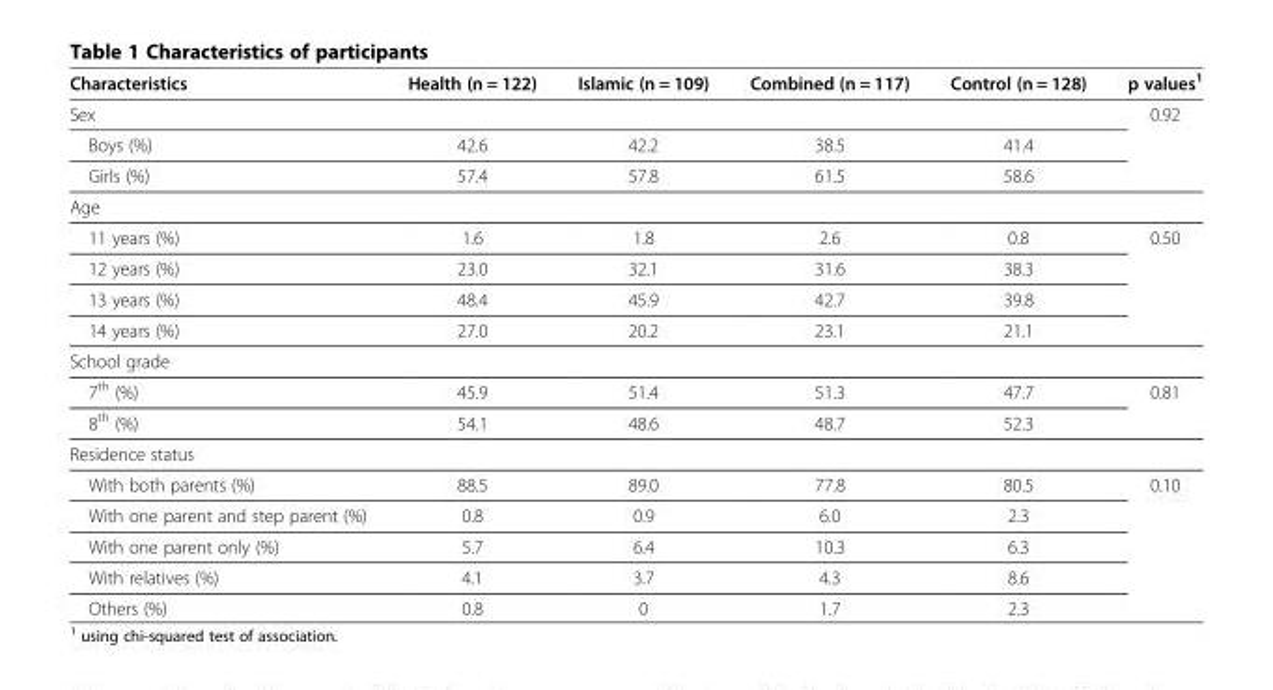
<table><thead><tr><td>Characteristics</td><td>Health (n = 122)</td><td>Islamic (n = 109)</td><td>Combined (n = 117)</td><td>Control (n = 128)</td><td>p values<sup>1</sup></td></tr></thead><tbody><tr><td colspan="5">Sex</td><td rowspan="2">0.92</td></tr><tr><td>Boys (%)</td><td>42.6</td><td>42.2</td><td>38.5</td><td>41.4</td></tr><tr><td>Girls (%)</td><td>57.4</td><td>57.8</td><td>61.5</td><td>58.6</td><td></td></tr><tr><td colspan="6">Age</td></tr><tr><td>11 years (%)</td><td>1.6</td><td>1.8</td><td>2.6</td><td>0.8</td><td rowspan="3">0.50</td></tr><tr><td>12 years (%)</td><td>23.0</td><td>32.1</td><td>31.6</td><td>38.3</td></tr><tr><td>13 years (%)</td><td>48.4</td><td>45.9</td><td>42.7</td><td>39.8</td></tr><tr><td>14 years (%)</td><td>27.0</td><td>20.2</td><td>23.1</td><td>21.1</td><td></td></tr><tr><td colspan="6">School grade</td></tr><tr><td>7<sup>th</sup> (%)</td><td>45.9</td><td>51.4</td><td>51.3</td><td>47.7</td><td rowspan="2">0.81</td></tr><tr><td>8<sup>th</sup> (%)</td><td>54.1</td><td>48.6</td><td>48.7</td><td>52.3</td></tr><tr><td colspan="6">Residence status</td></tr><tr><td>With both parents (%)</td><td>88.5</td><td>89.0</td><td>77.8</td><td>80.5</td><td rowspan="5">0.10</td></tr><tr><td>With one parent and step parent (%)</td><td>0.8</td><td>0.9</td><td>6.0</td><td>2.3</td></tr><tr><td>With one parent only (%)</td><td>5.7</td><td>6.4</td><td>10.3</td><td>6.3</td></tr><tr><td>With relatives (%)</td><td>4.1</td><td>3.7</td><td>4.3</td><td>8.6</td></tr><tr><td>Others (%)</td><td>0.8</td><td>0</td><td>1.7</td><td>2.3</td></tr></tbody></table>